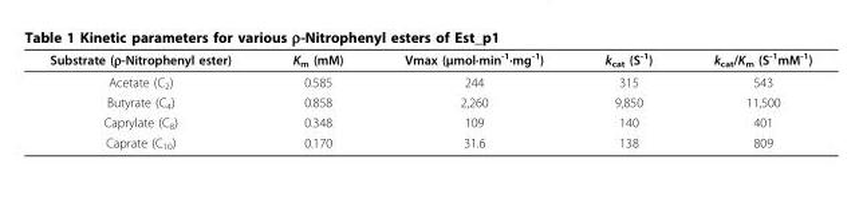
<table><thead><tr><td>Substrate (ρ-Nitrophenyl ester)</td><td>K<sub>m</sub> (mM)</td><td>Vmax (μmol·min<sup>-1</sup>·mg<sup>-1</sup>)</td><td>k<sub>cat</sub> (S<sup>-1</sup>)</td><td>k<sub>cat</sub>/K<sub>m</sub> (S<sup>-1</sup>mM<sup>-1</sup>)</td></tr></thead><tbody><tr><td>Acetate (C<sub>2</sub>)</td><td>0.585</td><td>244</td><td>315</td><td>543</td></tr><tr><td>Butyrate (C<sub>4</sub>)</td><td>0.858</td><td>2,260</td><td>9,850</td><td>11,500</td></tr><tr><td>Caprylate (C<sub>8</sub>)</td><td>0.348</td><td>109</td><td>140</td><td>401</td></tr><tr><td>Caprate (C<sub>10</sub>)</td><td>0.170</td><td>31.6</td><td>138</td><td>809</td></tr></tbody></table>